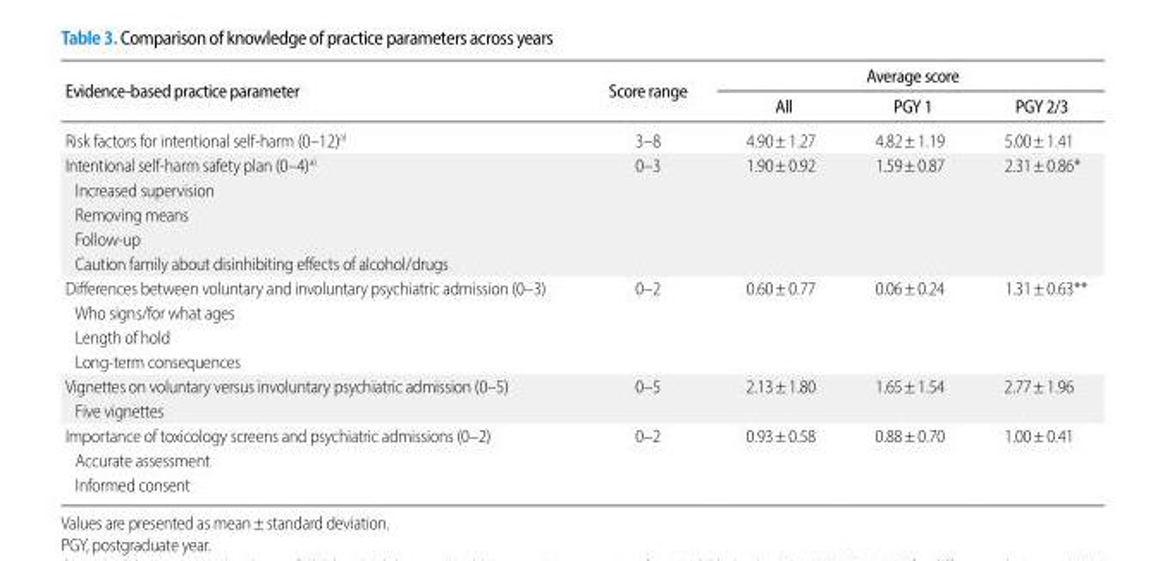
<table><thead><tr><td rowspan="2">Evidence-based practice parameter</td><td rowspan="2">Score range</td><td colspan="3">Average score</td></tr><tr><td>All</td><td>PGY 1</td><td>PGY 2/3</td></tr></thead><tbody><tr><td>Risk factors for intentional self-harm (0–12)<sup>a)</sup></td><td>3–8</td><td>4.90±1.27</td><td>4.82±1.19</td><td>5.00±1.41</td></tr><tr><td>Intentional self-harm safety plan (0–4)<sup>a)</sup></td><td>0–3</td><td>1.90±0.92</td><td>1.59±0.87</td><td>2.31±0.86*</td></tr><tr><td colspan="5">Increased supervision</td></tr><tr><td colspan="5">Removing means</td></tr><tr><td colspan="5">Follow-up</td></tr><tr><td colspan="5">Caution family about disinhibiting effects of alcohol/drugs</td></tr><tr><td>Differences between voluntary and involuntary psychiatric admission (0–3)</td><td>0–2</td><td>0.60±0.77</td><td>0.06±0.24</td><td>1.31±0.63**</td></tr><tr><td colspan="5">Who signs/for what ages</td></tr><tr><td colspan="5">Length of hold</td></tr><tr><td colspan="5">Long-term consequences</td></tr><tr><td>Vignettes on voluntary versus involuntary psychiatric admission (0–5)</td><td>0–5</td><td>2.13±1.80</td><td>1.65±1.54</td><td>2.77±1.96</td></tr><tr><td colspan="5">Five vignettes</td></tr><tr><td>Importance of toxicology screens and psychiatric admissions (0–2)</td><td>0–2</td><td>0.93±0.58</td><td>0.88±0.70</td><td>1.00±0.41</td></tr><tr><td colspan="5">Accurate assessment</td></tr><tr><td>Informed consent</td><td></td><td></td><td></td><td></td></tr></tbody></table>